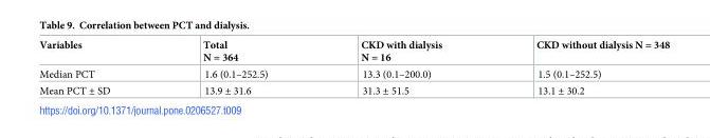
<table><thead><tr><td>Variables</td><td>Total N = 364</td><td>CKD with dialysis N = 16</td><td>CKD without dialysis N = 348</td></tr></thead><tbody><tr><td>Median PCT</td><td>1.6 (0.1–252.5)</td><td>13.3 (0.1–200.0)</td><td>1.5 (0.1–252.5)</td></tr><tr><td>Mean PCT ± SD</td><td>13.9 ± 31.6</td><td>31.3 ± 51.5</td><td>13.1 ± 30.2</td></tr></tbody></table>